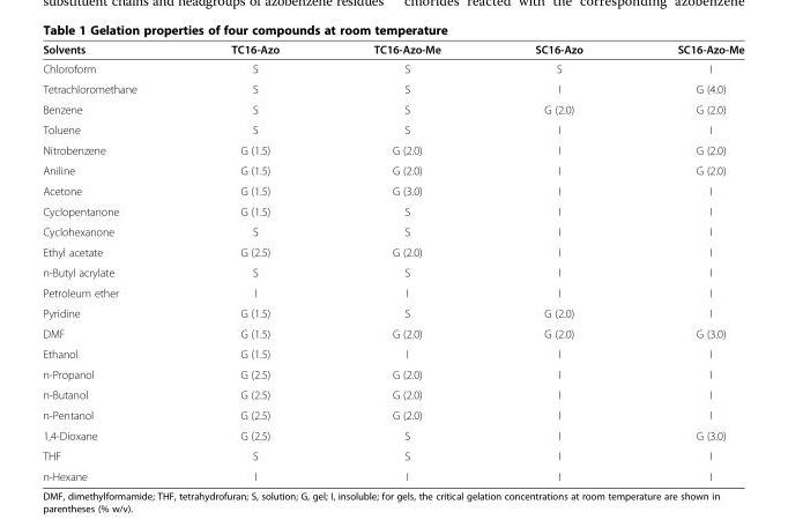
<table><thead><tr><td>Solvents</td><td>TC16-Azo</td><td>TC16-Azo-Me</td><td>SC16-Azo</td><td>SC16-Azo-Me</td></tr></thead><tbody><tr><td>Chloroform</td><td>S</td><td>S</td><td>S</td><td>I</td></tr><tr><td>Tetrachloromethane</td><td>S</td><td>S</td><td>I</td><td>G (4.0)</td></tr><tr><td>Benzene</td><td>S</td><td>S</td><td>G (2.0)</td><td>G (2.0)</td></tr><tr><td>Toluene</td><td>S</td><td>S</td><td>I</td><td>I</td></tr><tr><td>Nitrobenzene</td><td>G (1.5)</td><td>G (2.0)</td><td>I</td><td>G (2.0)</td></tr><tr><td>Aniline</td><td>G (1.5)</td><td>G (2.0)</td><td>I</td><td>G (2.0)</td></tr><tr><td>Acetone</td><td>G (1.5)</td><td>G (3.0)</td><td>I</td><td>I</td></tr><tr><td>Cyclopentanone</td><td>G (1.5)</td><td>S</td><td>I</td><td>I</td></tr><tr><td>Cyclohexanone</td><td>S</td><td>S</td><td>I</td><td>I</td></tr><tr><td>Ethyl acetate</td><td>G (2.5)</td><td>G (2.0)</td><td>I</td><td>I</td></tr><tr><td>n-Butyl acrylate</td><td>S</td><td>S</td><td>I</td><td>I</td></tr><tr><td>Petroleum ether</td><td>I</td><td>I</td><td>I</td><td>I</td></tr><tr><td>Pyridine</td><td>G (1.5)</td><td>S</td><td>G (2.0)</td><td>I</td></tr><tr><td>DMF</td><td>G (1.5)</td><td>G (2.0)</td><td>G (2.0)</td><td>G (3.0)</td></tr><tr><td>Ethanol</td><td>G (1.5)</td><td>I</td><td>I</td><td>I</td></tr><tr><td>n-Propanol</td><td>G (2.5)</td><td>G (2.0)</td><td>I</td><td>I</td></tr><tr><td>n-Butanol</td><td>G (2.5)</td><td>G (2.0)</td><td>I</td><td>I</td></tr><tr><td>n-Pentanol</td><td>G (2.5)</td><td>G (2.0)</td><td>I</td><td>I</td></tr><tr><td>1,4-Dioxane</td><td>G (2.5)</td><td>S</td><td>I</td><td>G (3.0)</td></tr><tr><td>THF</td><td>S</td><td>S</td><td>I</td><td>I</td></tr><tr><td>n-Hexane</td><td>I</td><td>I</td><td>I</td><td>I</td></tr></tbody></table>